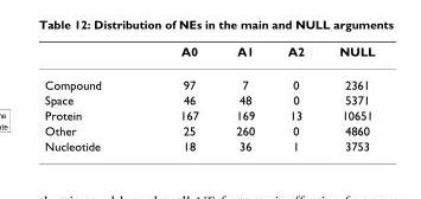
<table><thead><tr><td></td><td>A0</td><td>A1</td><td>A2</td><td>NULL</td></tr></thead><tbody><tr><td>Compound</td><td>97</td><td>7</td><td>0</td><td>2361</td></tr><tr><td>Space</td><td>46</td><td>48</td><td>0</td><td>5371</td></tr><tr><td>Protein</td><td>167</td><td>169</td><td>13</td><td>10651</td></tr><tr><td>Other</td><td>25</td><td>260</td><td>0</td><td>4860</td></tr><tr><td>Nucleotide</td><td>18</td><td>36</td><td>1</td><td>3753</td></tr></tbody></table>